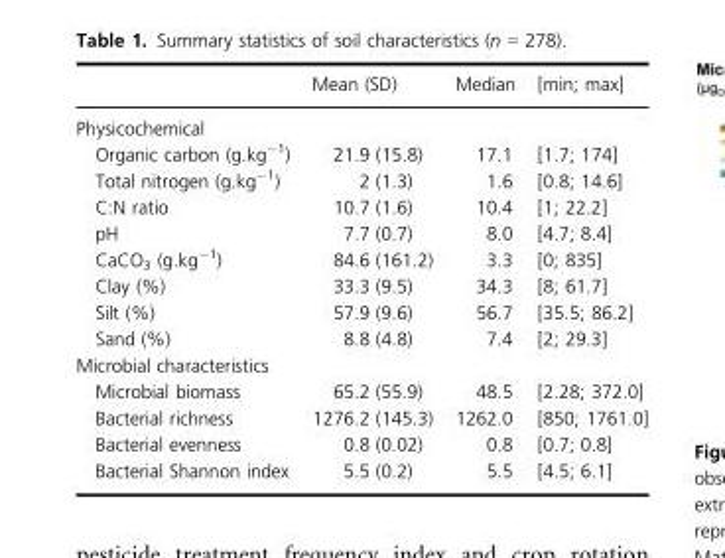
<table><thead><tr><td></td><td>Mean (SD)</td><td>Median</td><td>[min; max]</td></tr></thead><tbody><tr><td colspan="4">Physicochemical</td></tr><tr><td>Organic carbon (g.kg<sup>−1</sup>)</td><td>21.9 (15.8)</td><td>17.1</td><td>[1.7; 174]</td></tr><tr><td>Total nitrogen (g.kg<sup>−1</sup>)</td><td>2 (1.3)</td><td>1.6</td><td>[0.8; 14.6]</td></tr><tr><td>C:N ratio</td><td>10.7 (1.6)</td><td>10.4</td><td>[1; 22.2]</td></tr><tr><td>pH</td><td>7.7 (0.7)</td><td>8.0</td><td>[4.7; 8.4]</td></tr><tr><td>CaCO<sub>3</sub> (g.kg<sup>−1</sup>)</td><td>84.6 (161.2)</td><td>3.3</td><td>[0; 835]</td></tr><tr><td>Clay (%)</td><td>33.3 (9.5)</td><td>34.3</td><td>[8; 61.7]</td></tr><tr><td>Silt (%)</td><td>57.9 (9.6)</td><td>56.7</td><td>[35.5; 86.2]</td></tr><tr><td>Sand (%)</td><td>8.8 (4.8)</td><td>7.4</td><td>[2; 29.3]</td></tr><tr><td colspan="4">Microbial characteristics</td></tr><tr><td>Microbial biomass</td><td>65.2 (55.9)</td><td>48.5</td><td>[2.28; 372.0]</td></tr><tr><td>Bacterial richness</td><td>1276.2 (145.3)</td><td>1262.0</td><td>[850; 1761.0]</td></tr><tr><td>Bacterial evenness</td><td>0.8 (0.02)</td><td>0.8</td><td>[0.7; 0.8]</td></tr><tr><td>Bacterial Shannon index</td><td>5.5 (0.2)</td><td>5.5</td><td>[4.5; 6.1]</td></tr></tbody></table>